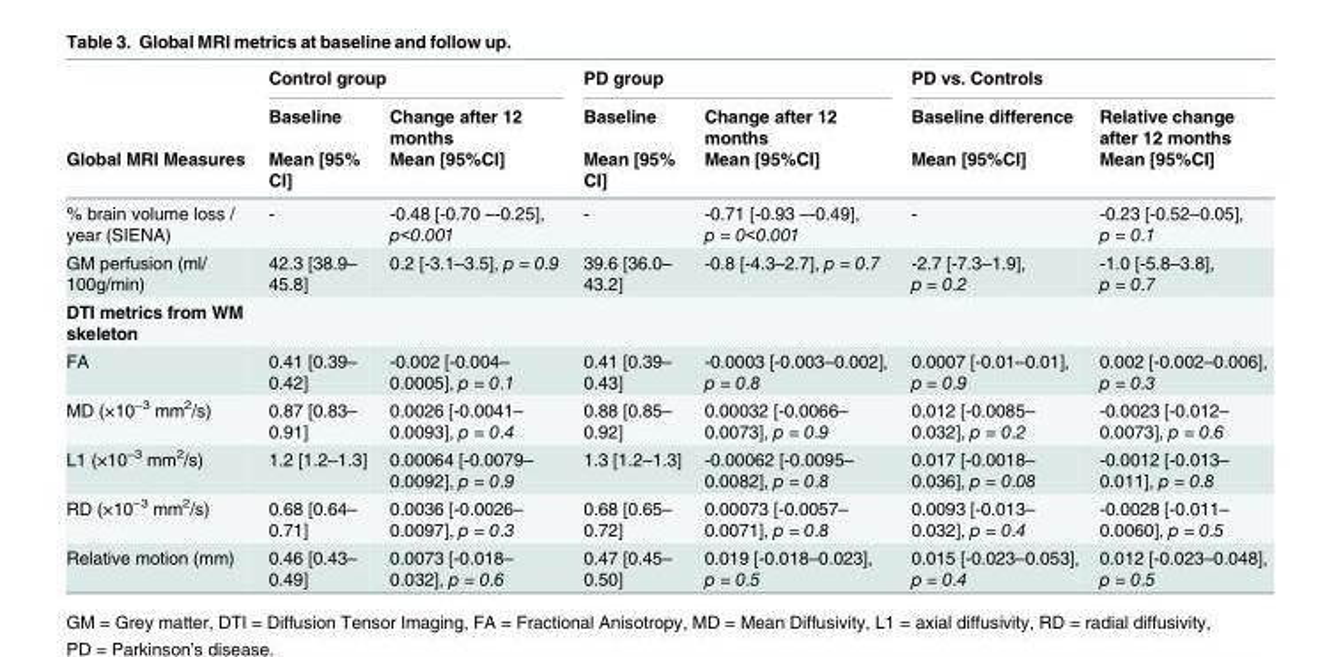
<table><thead><tr><td rowspan="3">Global MRI Measures</td><td colspan="2">Control group</td><td colspan="2">PD group</td><td colspan="2">PD vs. Controls</td></tr><tr><td rowspan="2">Baseline Mean [95% CI]</td><td rowspan="2">Change after 12 months Mean [95%CI]</td><td rowspan="2">Baseline Mean [95% CI]</td><td rowspan="2">Change after 12 months Mean [95%CI]</td><td rowspan="2">Baseline difference Mean [95%CI]</td><td rowspan="2">Relative change after 12 months Mean [95%CI]</td></tr><tr></tr></thead><tbody><tr><td>% brain volume loss / year (SIENA)</td><td>-</td><td>-0.48 [-0.70 –-0.25], p&lt;0.001</td><td>-</td><td>-0.71 [-0.93 –-0.49], p = 0&lt;0.001</td><td>-</td><td>-0.23 [-0.52–0.05], p = 0.1</td></tr><tr><td>GM perfusion (ml/ 100g/min)</td><td>42.3 [38.9– 45.8]</td><td>0.2 [-3.1–3.5], p = 0.9</td><td>39.6 [36.0– 43.2]</td><td>-0.8 [-4.3–2.7], p = 0.7</td><td>-2.7 [-7.3–1.9], p = 0.2</td><td>-1.0 [-5.8–3.8], p = 0.7</td></tr><tr><td colspan="7">DTI metrics from WM skeleton</td></tr><tr><td>FA</td><td>0.41 [0.39– 0.42]</td><td>-0.002 [-0.004– 0.0005], p = 0.1</td><td>0.41 [0.39– 0.43]</td><td>-0.0003 [-0.003–0.002], p = 0.8</td><td>0.0007 [-0.01–0.01], p = 0.9</td><td>0.002 [-0.002–0.006], p = 0.3</td></tr><tr><td>MD (×10<sup>−3</sup> mm<sup>2</sup>/s)</td><td>0.87 [0.83– 0.91]</td><td>0.0026 [-0.0041– 0.0093], p = 0.4</td><td>0.88 [0.85– 0.92]</td><td>0.00032 [-0.0066– 0.0073], p = 0.9</td><td>0.012 [-0.0085– 0.032], p = 0.2</td><td>-0.0023 [-0.012– 0.0073], p = 0.6</td></tr><tr><td>L1 (×10<sup>−3</sup> mm<sup>2</sup>/s)</td><td>1.2 [1.2–1.3]</td><td>0.00064 [-0.0079– 0.0092], p = 0.9</td><td>1.3 [1.2–1.3]</td><td>-0.00062 [-0.0095– 0.0082], p = 0.8</td><td>0.017 [-0.0018– 0.036], p = 0.08</td><td>-0.0012 [-0.013– 0.011], p = 0.8</td></tr><tr><td>RD (×10<sup>−3</sup> mm<sup>2</sup>/s)</td><td>0.68 [0.64– 0.71]</td><td>0.0036 [-0.0026– 0.0097], p = 0.3</td><td>0.68 [0.65– 0.72]</td><td>0.00073 [-0.0057– 0.0071], p = 0.8</td><td>0.0093 [-0.013– 0.032], p = 0.4</td><td>-0.0028 [-0.011– 0.0060], p = 0.5</td></tr><tr><td>Relative motion (mm)</td><td>0.46 [0.43– 0.49]</td><td>0.0073 [-0.018– 0.032], p = 0.6</td><td>0.47 [0.45– 0.50]</td><td>0.019 [-0.018–0.023], p = 0.5</td><td>0.015 [-0.023–0.053], p = 0.4</td><td>0.012 [-0.023–0.048], p = 0.5</td></tr></tbody></table>